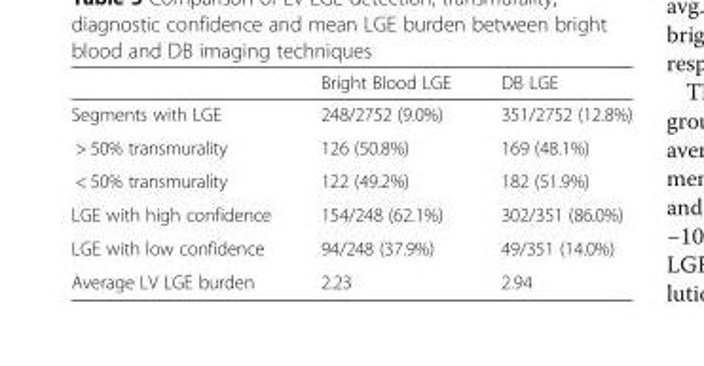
<table><thead><tr><td></td><td>Bright Blood LGE</td><td>DB LGE</td></tr></thead><tbody><tr><td>Segments with LGE</td><td>248/2752 (9.0%)</td><td>351/2752 (12.8%)</td></tr><tr><td>&gt; 50% transmurality</td><td>126 (50.8%)</td><td>169 (48.1%)</td></tr><tr><td>&lt; 50% transmurality</td><td>122 (49.2%)</td><td>182 (51.9%)</td></tr><tr><td>LGE with high confidence</td><td>154/248 (62.1%)</td><td>302/351 (86.0%)</td></tr><tr><td>LGE with low confidence</td><td>94/248 (37.9%)</td><td>49/351 (14.0%)</td></tr><tr><td>Average LV LGE burden</td><td>2.23</td><td>2.94</td></tr></tbody></table>